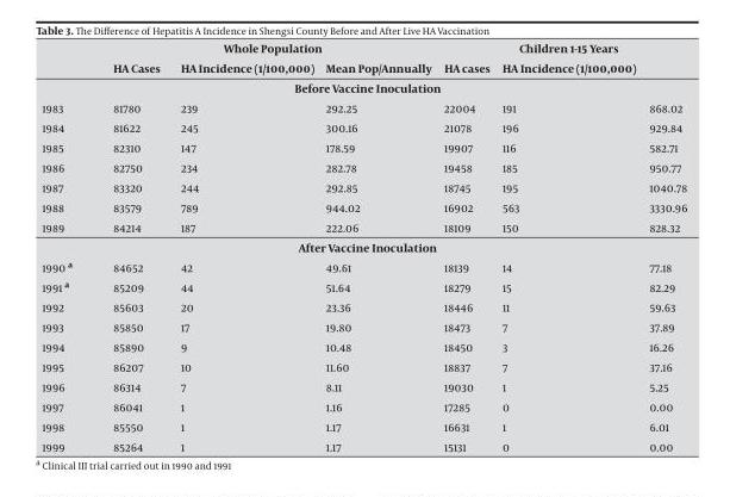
<table><thead><tr><td rowspan="2"></td><td colspan="3">Whole Population</td><td colspan="3">Children 1-15 Years</td></tr><tr><td>HA Cases</td><td>HA Incidence (1/100,000)</td><td>Mean Pop/Annually</td><td>HA cases</td><td>HA Incidence (1/100,000)</td><td></td></tr></thead><tbody><tr><td colspan="7">Before Vaccine Inoculation</td></tr><tr><td>1983</td><td>81780</td><td>239</td><td>292.25</td><td>22004</td><td>191</td><td>868.02</td></tr><tr><td>1984</td><td>81622</td><td>245</td><td>300.16</td><td>21078</td><td>196</td><td>929.84</td></tr><tr><td>1985</td><td>82310</td><td>147</td><td>178.59</td><td>19907</td><td>116</td><td>582.71</td></tr><tr><td>1986</td><td>82750</td><td>234</td><td>282.78</td><td>19458</td><td>185</td><td>950.77</td></tr><tr><td>1987</td><td>83320</td><td>244</td><td>292.85</td><td>18745</td><td>195</td><td>1040.78</td></tr><tr><td>1988</td><td>83579</td><td>789</td><td>944.02</td><td>16902</td><td>563</td><td>3330.96</td></tr><tr><td>1989</td><td>84214</td><td>187</td><td>222.06</td><td>18109</td><td>150</td><td>828.32</td></tr><tr><td colspan="7">After Vaccine Inoculation</td></tr><tr><td>1990 a</td><td>84652</td><td>42</td><td>49.61</td><td>18139</td><td>14</td><td>77.18</td></tr><tr><td>1991 a</td><td>85209</td><td>44</td><td>51.64</td><td>18279</td><td>15</td><td>82.29</td></tr><tr><td>1992</td><td>85603</td><td>20</td><td>23.36</td><td>18446</td><td>11</td><td>59.63</td></tr><tr><td>1993</td><td>85850</td><td>17</td><td>19.80</td><td>18473</td><td>7</td><td>37.89</td></tr><tr><td>1994</td><td>85890</td><td>9</td><td>10.48</td><td>18450</td><td>3</td><td>16.26</td></tr><tr><td>1995</td><td>86207</td><td>10</td><td>11.60</td><td>18837</td><td>7</td><td>37.16</td></tr><tr><td>1996</td><td>86314</td><td>7</td><td>8.11</td><td>19030</td><td>1</td><td>5.25</td></tr><tr><td>1997</td><td>86041</td><td>1</td><td>1.16</td><td>17285</td><td>0</td><td>0.00</td></tr><tr><td>1998</td><td>85550</td><td>1</td><td>1.17</td><td>16631</td><td>1</td><td>6.01</td></tr><tr><td>1999</td><td>85264</td><td>1</td><td>1.17</td><td>15131</td><td>0</td><td>0.00</td></tr></tbody></table>